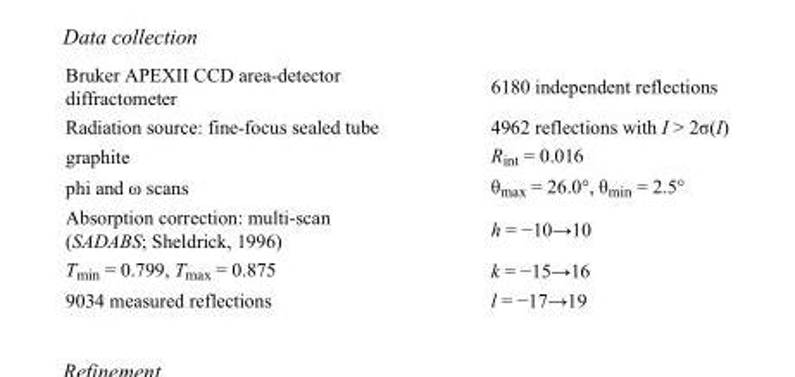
<table><tbody><tr><td>Bruker APEXII CCD area-detector diffractometer</td><td>6180 independent reflections</td></tr><tr><td>Radiation source: fine-focus sealed tube</td><td>4962 reflections with I &gt; 2σ(I)</td></tr><tr><td>graphite</td><td>R<sub>int</sub> = 0.016</td></tr><tr><td>phi and ω scans</td><td>θ<sub>max</sub> = 26.0°, θ<sub>min</sub> = 2.5°</td></tr><tr><td>Absorption correction: multi-scan (SADABS; Sheldrick, 1996)</td><td>h = −10→10</td></tr><tr><td>T<sub>min</sub> = 0.799, T<sub>max</sub> = 0.875</td><td>k = −15→16</td></tr><tr><td>9034 measured reflections</td><td>l = −17→19</td></tr></tbody></table>